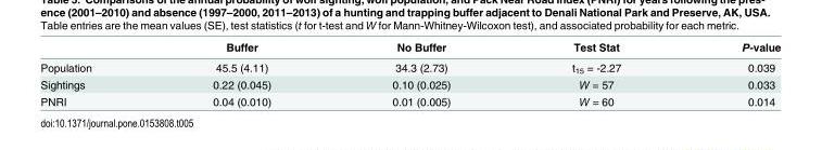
<table><thead><tr><td></td><td>Buffer</td><td>No Buffer</td><td>Test Stat</td><td>P-value</td></tr></thead><tbody><tr><td>Population</td><td>45.5 (4.11)</td><td>34.3 (2.73)</td><td>t<sub>15</sub> = -2.27</td><td>0.039</td></tr><tr><td>Sightings</td><td>0.22 (0.045)</td><td>0.10 (0.025)</td><td>W = 57</td><td>0.033</td></tr><tr><td>PNRI</td><td>0.04 (0.010)</td><td>0.01 (0.005)</td><td>W = 60</td><td>0.014</td></tr></tbody></table>